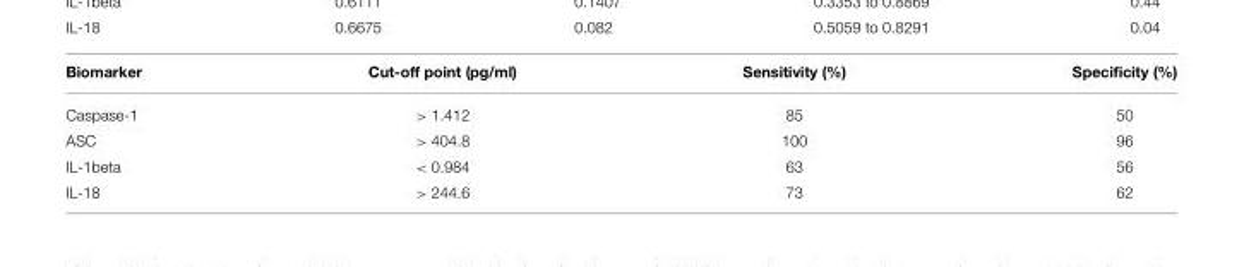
<table><thead><tr><td>Biomarker</td><td>Cut-off point (pg/ml)</td><td>Sensitivity (%)</td><td>Specificity (%)</td></tr></thead><tbody><tr><td>Caspase-1</td><td>&gt; 1.412</td><td>85</td><td>50</td></tr><tr><td>ASC</td><td>&gt; 404.8</td><td>100</td><td>96</td></tr><tr><td>IL-1beta</td><td>&lt; 0.984</td><td>63</td><td>56</td></tr><tr><td>IL-18</td><td>&gt; 244.6</td><td>73</td><td>62</td></tr></tbody></table>